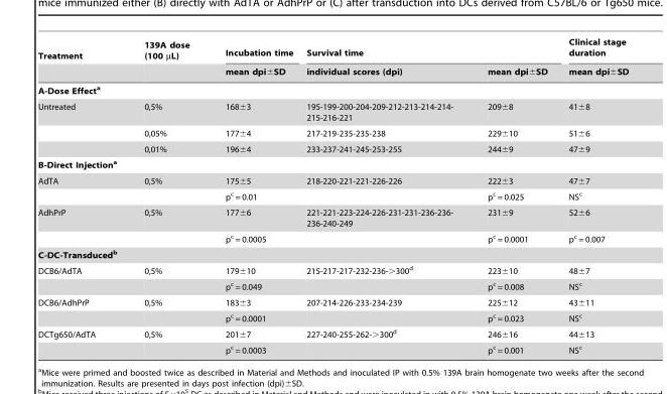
<table><thead><tr><td rowspan="2">Treatment</td><td rowspan="2">139A dose (100 µL)</td><td rowspan="2">Incubation time mean dpi±SD</td><td colspan="2">Survival time</td><td rowspan="2">Clinical stage duration mean dpi±SD</td></tr><tr><td>individual scores (dpi)</td><td>mean dpi±SD</td></tr></thead><tbody><tr><td colspan="6">A-Dose Effecta</td></tr><tr><td rowspan="3">Untreated</td><td>0,5%</td><td>168±3</td><td>195-199-200-204-209-212-213-214-214- 215-216-221</td><td>209±8</td><td>41±8</td></tr><tr><td>0,05%</td><td>177±4</td><td>217-219-235-235-238</td><td>229±10</td><td>51±6</td></tr><tr><td>0,01%</td><td>196±4</td><td>233-237-241-245-253-255</td><td>244±9</td><td>47±9</td></tr><tr><td colspan="6">B-Direct Injectiona</td></tr><tr><td rowspan="2">AdTA</td><td>0,5%</td><td>175±5</td><td>218-220-221-221-226-226</td><td>222±3</td><td>47±7</td></tr><tr><td></td><td>p<sup>c</sup> = 0.01</td><td></td><td>p<sup>c</sup> = 0.025</td><td>NS<sup>c</sup></td></tr><tr><td rowspan="2">AdhPrP</td><td>0,5%</td><td>177±6</td><td>221-221-223-224-226-231-231-236-236- 236-240-249</td><td>231±9</td><td>52±6</td></tr><tr><td></td><td>p<sup>c</sup> = 0.0005</td><td></td><td>p<sup>c</sup> = 0.0001</td><td>p<sup>c</sup> = 0.007</td></tr><tr><td colspan="6">C-DC-Transducedb</td></tr><tr><td rowspan="2">DCB6/AdTA</td><td>0,5%</td><td>179±10</td><td>215-217-217-232-236-&gt;300<sup>d</sup></td><td>223±10</td><td>48±7</td></tr><tr><td></td><td>p<sup>c</sup> = 0.049</td><td></td><td>p<sup>c</sup> = 0.008</td><td>NS<sup>c</sup></td></tr><tr><td rowspan="2">DCB6/AdhPrP</td><td>0,5%</td><td>183±3</td><td>207-214-226-233-234-239</td><td>225±12</td><td>43±11</td></tr><tr><td></td><td>p<sup>c</sup> = 0.0001</td><td></td><td>p<sup>c</sup> = 0.023</td><td>NS<sup>c</sup></td></tr><tr><td rowspan="2">DCTg650/AdTA</td><td>0,5%</td><td>201±7</td><td>227-240-255-262-&gt;300<sup>d</sup></td><td>246±16</td><td>44±13</td></tr><tr><td></td><td>p<sup>c</sup> = 0.0003</td><td></td><td>p<sup>c</sup> = 0.001</td><td>NS<sup>c</sup></td></tr></tbody></table>